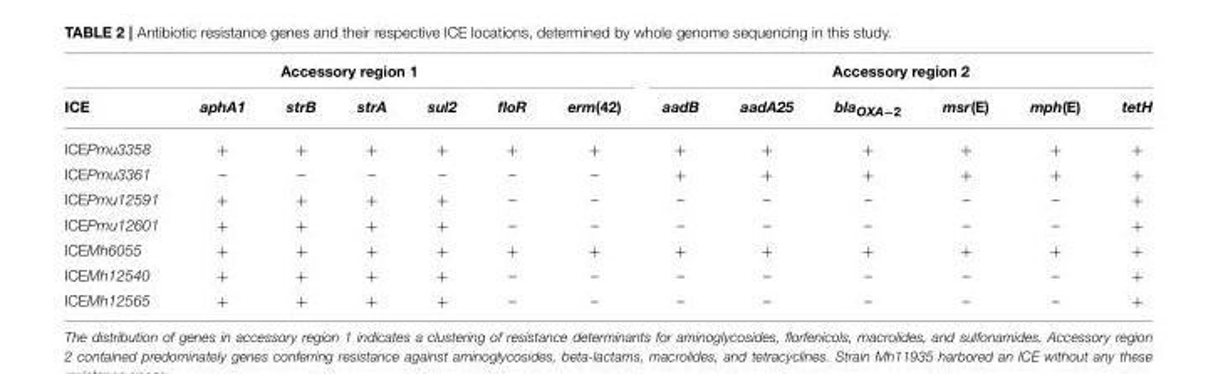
<table><thead><tr><td colspan="7">Accessory region 1</td><td colspan="6">Accessory region 2</td></tr><tr><td>ICE</td><td>aphA1</td><td>strB</td><td>strA</td><td>sul2</td><td>floR</td><td>erm(42)</td><td>aadB</td><td>aadA25</td><td>blaOXA−2</td><td>msr(E)</td><td>mph(E)</td><td>tetH</td></tr></thead><tbody><tr><td>ICEPmu3358</td><td>+</td><td>+</td><td>+</td><td>+</td><td>+</td><td>+</td><td>+</td><td>+</td><td>+</td><td>+</td><td>+</td><td>+</td></tr><tr><td>ICEPmu3361</td><td>–</td><td>–</td><td>–</td><td>–</td><td>–</td><td>–</td><td>+</td><td>+</td><td>+</td><td>+</td><td>+</td><td>+</td></tr><tr><td>ICEPmu12591</td><td>+</td><td>+</td><td>+</td><td>+</td><td>–</td><td>–</td><td>–</td><td>–</td><td>–</td><td>–</td><td>–</td><td>+</td></tr><tr><td>ICEPmu12601</td><td>+</td><td>+</td><td>+</td><td>+</td><td>–</td><td>–</td><td>–</td><td>–</td><td>–</td><td>–</td><td>–</td><td>+</td></tr><tr><td>ICEMh6055</td><td>+</td><td>+</td><td>+</td><td>+</td><td>+</td><td>+</td><td>+</td><td>+</td><td>+</td><td>+</td><td>+</td><td>+</td></tr><tr><td>ICEMh12540</td><td>+</td><td>+</td><td>+</td><td>+</td><td>–</td><td>–</td><td>–</td><td>–</td><td>–</td><td>–</td><td>–</td><td>+</td></tr><tr><td>ICEMh12565</td><td>+</td><td>+</td><td>+</td><td>+</td><td>–</td><td>–</td><td>–</td><td>–</td><td>–</td><td>–</td><td>–</td><td>+</td></tr></tbody></table>